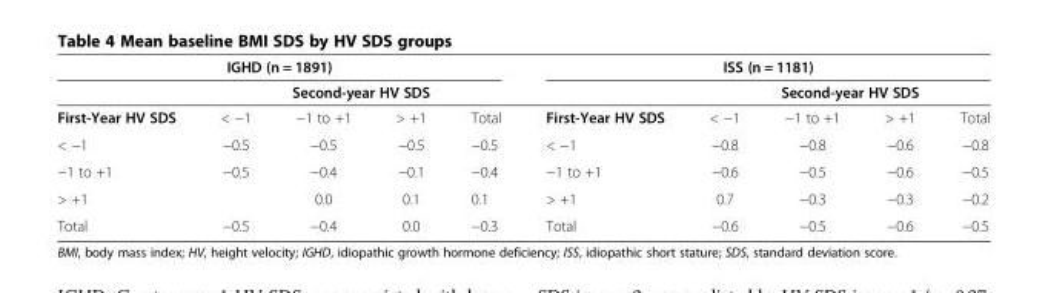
<table><thead><tr><td colspan="5">IGHD (n = 1891)</td><td colspan="5">ISS (n = 1181)</td></tr><tr><td rowspan="2">First-Year HV SDS</td><td colspan="4">Second-year HV SDS</td><td rowspan="2">First-Year HV SDS</td><td colspan="4">Second-year HV SDS</td></tr><tr><td>&lt; −1</td><td>−1 to +1</td><td>&gt; +1</td><td>Total</td><td>&lt; −1</td><td>−1 to +1</td><td>&gt; +1</td><td>Total</td></tr></thead><tbody><tr><td>&lt; −1</td><td>−0.5</td><td>−0.5</td><td>−0.5</td><td>−0.5</td><td>&lt; −1</td><td>−0.8</td><td>−0.8</td><td>−0.6</td><td>−0.8</td></tr><tr><td>−1 to +1</td><td>−0.5</td><td>−0.4</td><td>−0.1</td><td>−0.4</td><td>−1 to +1</td><td>−0.6</td><td>−0.5</td><td>−0.6</td><td>−0.5</td></tr><tr><td>&gt; +1</td><td></td><td>0.0</td><td>0.1</td><td>0.1</td><td>&gt; +1</td><td>0.7</td><td>−0.3</td><td>−0.3</td><td>−0.2</td></tr><tr><td>Total</td><td>−0.5</td><td>−0.4</td><td>0.0</td><td>−0.3</td><td>Total</td><td>−0.6</td><td>−0.5</td><td>−0.6</td><td>−0.5</td></tr></tbody></table>